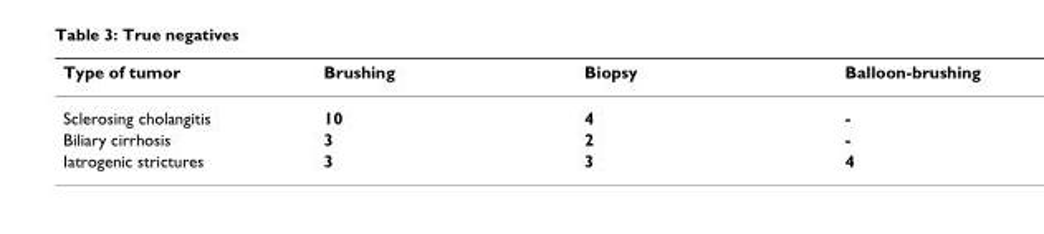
<table><thead><tr><td>Type of tumor</td><td>Brushing</td><td>Biopsy</td><td>Balloon-brushing</td></tr></thead><tbody><tr><td>Sclerosing cholangitis</td><td>10</td><td>4</td><td>-</td></tr><tr><td>Biliary cirrhosis</td><td>3</td><td>2</td><td>-</td></tr><tr><td>Iatrogenic strictures</td><td>3</td><td>3</td><td>4</td></tr></tbody></table>